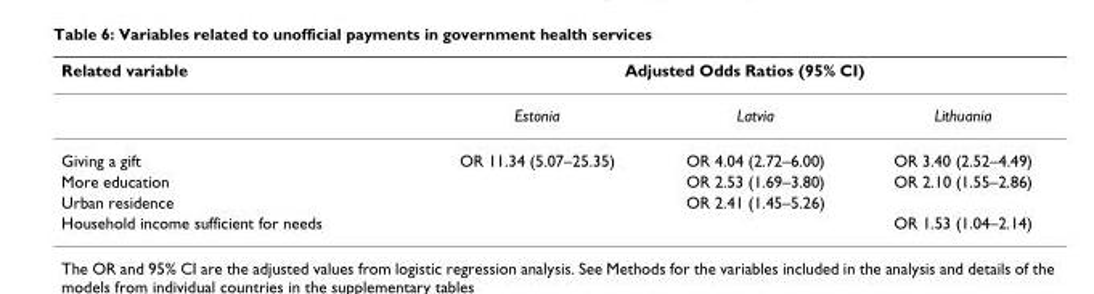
<table><thead><tr><td rowspan="2">Related variable</td><td colspan="3">Adjusted Odds Ratios (95% CI)</td></tr><tr><td>Estonia</td><td>Latvia</td><td>Lithuania</td></tr></thead><tbody><tr><td>Giving a gift</td><td>OR 11.34 (5.07–25.35)</td><td>OR 4.04 (2.72–6.00)</td><td>OR 3.40 (2.52–4.49)</td></tr><tr><td>More education</td><td></td><td>OR 2.53 (1.69–3.80)</td><td>OR 2.10 (1.55–2.86)</td></tr><tr><td>Urban residence</td><td></td><td>OR 2.41 (1.45–5.26)</td><td></td></tr><tr><td>Household income sufficient for needs</td><td></td><td></td><td>OR 1.53 (1.04–2.14)</td></tr></tbody></table>